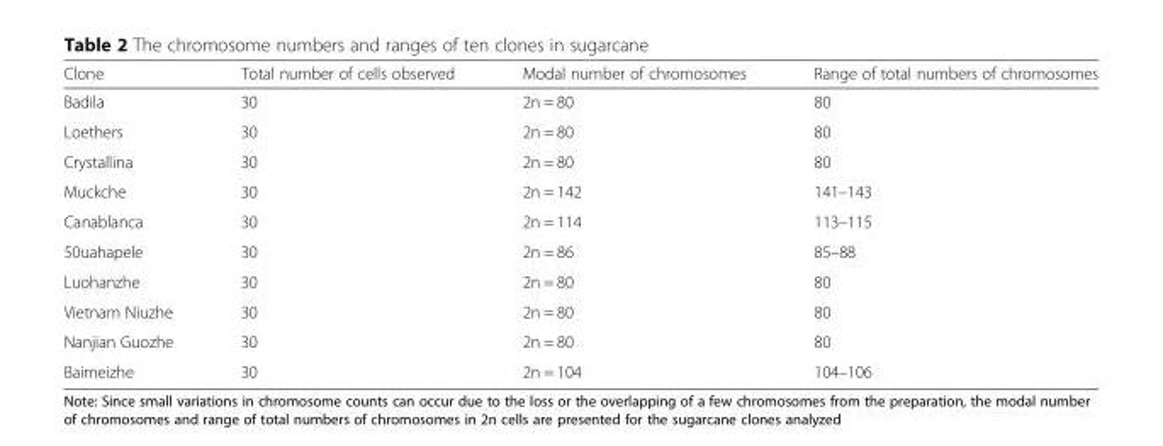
<table><thead><tr><td>Clone</td><td>Total number of cells observed</td><td>Modal number of chromosomes</td><td>Range of total numbers of chromosomes</td></tr></thead><tbody><tr><td>Badila</td><td>30</td><td>2n = 80</td><td>80</td></tr><tr><td>Loethers</td><td>30</td><td>2n = 80</td><td>80</td></tr><tr><td>Crystallina</td><td>30</td><td>2n = 80</td><td>80</td></tr><tr><td>Muckche</td><td>30</td><td>2n = 142</td><td>141–143</td></tr><tr><td>Canablanca</td><td>30</td><td>2n = 114</td><td>113–115</td></tr><tr><td>50uahapele</td><td>30</td><td>2n = 86</td><td>85–88</td></tr><tr><td>Luohanzhe</td><td>30</td><td>2n = 80</td><td>80</td></tr><tr><td>Vietnam Niuzhe</td><td>30</td><td>2n = 80</td><td>80</td></tr><tr><td>Nanjian Guozhe</td><td>30</td><td>2n = 80</td><td>80</td></tr><tr><td>Baimeizhe</td><td>30</td><td>2n = 104</td><td>104–106</td></tr></tbody></table>